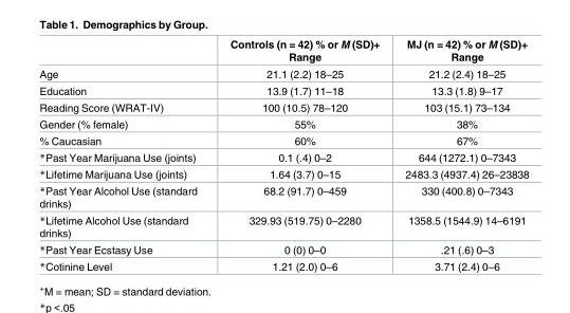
<table><thead><tr><td></td><td>Controls (n = 42) % or M (SD)+ Range</td><td>MJ (n = 42) % or M (SD)+ Range</td></tr></thead><tbody><tr><td>Age</td><td>21.1 (2.2) 18–25</td><td>21.2 (2.4) 18–25</td></tr><tr><td>Education</td><td>13.9 (1.7) 11–18</td><td>13.3 (1.8) 9–17</td></tr><tr><td>Reading Score (WRAT-IV)</td><td>100 (10.5) 78–120</td><td>103 (15.1) 73–134</td></tr><tr><td>Gender (% female)</td><td>55%</td><td>38%</td></tr><tr><td>% Caucasian</td><td>60%</td><td>67%</td></tr><tr><td>*Past Year Marijuana Use (joints)</td><td>0.1 (.4) 0–2</td><td>644 (1272.1) 0–7343</td></tr><tr><td>*Lifetime Marijuana Use (joints)</td><td>1.64 (3.7) 0–15</td><td>2483.3 (4937.4) 26–23838</td></tr><tr><td>*Past Year Alcohol Use (standard drinks)</td><td>68.2 (91.7) 0–459</td><td>330 (400.8) 0–7343</td></tr><tr><td>*Lifetime Alcohol Use (standard drinks)</td><td>329.93 (519.75) 0–2280</td><td>1358.5 (1544.9) 14–6191</td></tr><tr><td>*Past Year Ecstasy Use</td><td>0 (0) 0–0</td><td>.21 (.6) 0–3</td></tr><tr><td>*Cotinine Level</td><td>1.21 (2.0) 0–6</td><td>3.71 (2.4) 0–6</td></tr></tbody></table>